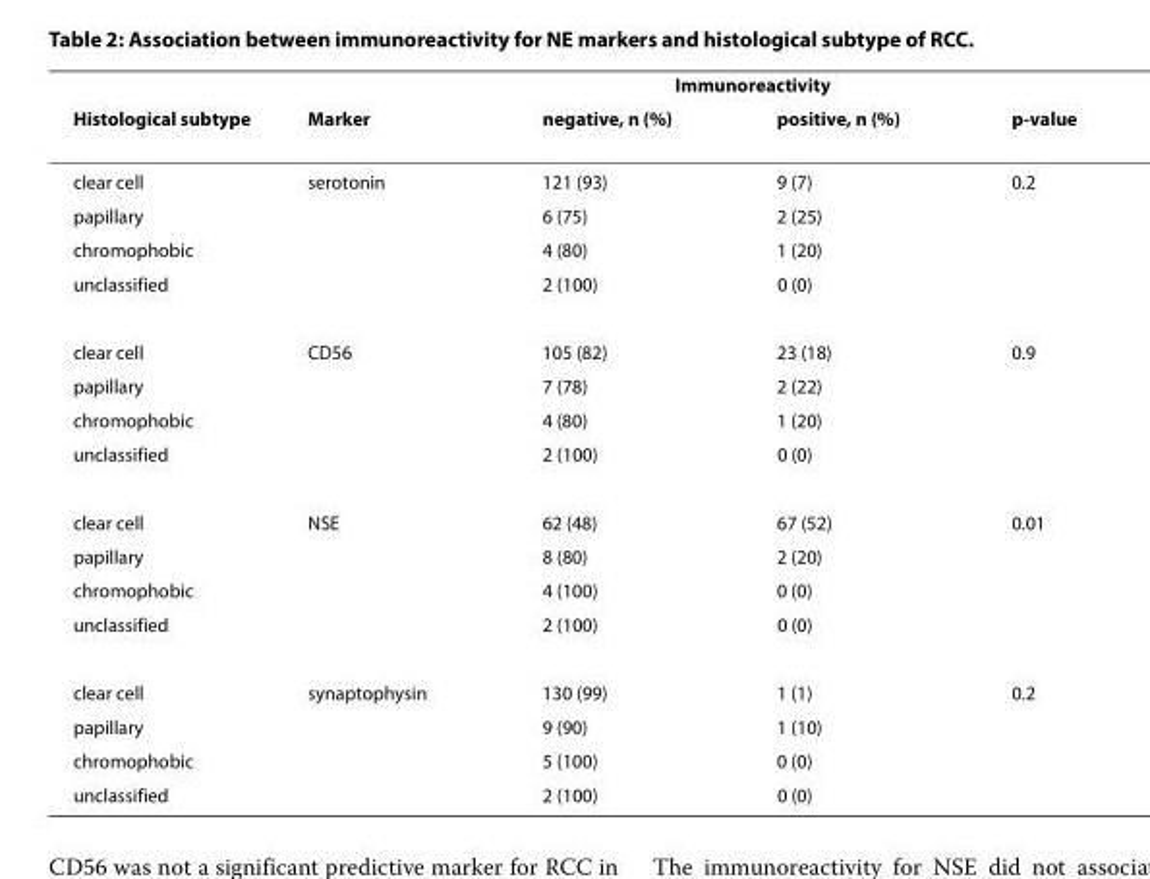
<table><thead><tr><td rowspan="2">Histological subtype</td><td rowspan="2">Marker</td><td colspan="2">Immunoreactivity</td><td rowspan="2">p-value</td></tr><tr><td>negative, n (%)</td><td>positive, n (%)</td></tr></thead><tbody><tr><td>clear cell</td><td>serotonin</td><td>121 (93)</td><td>9 (7)</td><td>0.2</td></tr><tr><td>papillary</td><td></td><td>6 (75)</td><td>2 (25)</td><td></td></tr><tr><td>chromophobic</td><td></td><td>4 (80)</td><td>1 (20)</td><td></td></tr><tr><td>unclassified</td><td></td><td>2 (100)</td><td>0 (0)</td><td></td></tr><tr><td>clear cell</td><td>CD56</td><td>105 (82)</td><td>23 (18)</td><td>0.9</td></tr><tr><td>papillary</td><td></td><td>7 (78)</td><td>2 (22)</td><td></td></tr><tr><td>chromophobic</td><td></td><td>4 (80)</td><td>1 (20)</td><td></td></tr><tr><td>unclassified</td><td></td><td>2 (100)</td><td>0 (0)</td><td></td></tr><tr><td>clear cell</td><td>NSE</td><td>62 (48)</td><td>67 (52)</td><td>0.01</td></tr><tr><td>papillary</td><td></td><td>8 (80)</td><td>2 (20)</td><td></td></tr><tr><td>chromophobic</td><td></td><td>4 (100)</td><td>0 (0)</td><td></td></tr><tr><td>unclassified</td><td></td><td>2 (100)</td><td>0 (0)</td><td></td></tr><tr><td>clear cell</td><td>synaptophysin</td><td>130 (99)</td><td>1 (1)</td><td>0.2</td></tr><tr><td>papillary</td><td></td><td>9 (90)</td><td>1 (10)</td><td></td></tr><tr><td>chromophobic</td><td></td><td>5 (100)</td><td>0 (0)</td><td></td></tr><tr><td>unclassified</td><td></td><td>2 (100)</td><td>0 (0)</td><td></td></tr></tbody></table>